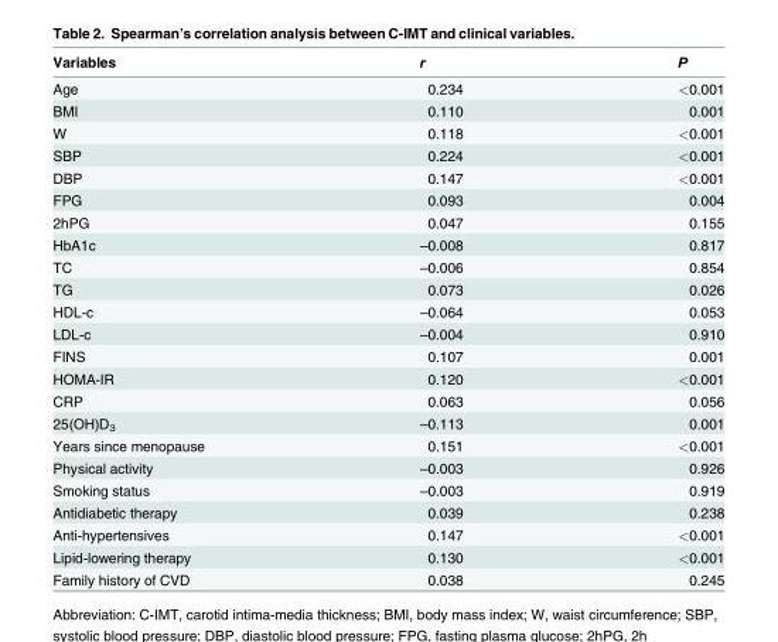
<table><thead><tr><td>Variables</td><td>r</td><td>P</td></tr></thead><tbody><tr><td>Age</td><td>0.234</td><td>&lt;0.001</td></tr><tr><td>BMI</td><td>0.110</td><td>0.001</td></tr><tr><td>W</td><td>0.118</td><td>&lt;0.001</td></tr><tr><td>SBP</td><td>0.224</td><td>&lt;0.001</td></tr><tr><td>DBP</td><td>0.147</td><td>&lt;0.001</td></tr><tr><td>FPG</td><td>0.093</td><td>0.004</td></tr><tr><td>2hPG</td><td>0.047</td><td>0.155</td></tr><tr><td>HbA1c</td><td>–0.008</td><td>0.817</td></tr><tr><td>TC</td><td>–0.006</td><td>0.854</td></tr><tr><td>TG</td><td>0.073</td><td>0.026</td></tr><tr><td>HDL-c</td><td>–0.064</td><td>0.053</td></tr><tr><td>LDL-c</td><td>–0.004</td><td>0.910</td></tr><tr><td>FINS</td><td>0.107</td><td>0.001</td></tr><tr><td>HOMA-IR</td><td>0.120</td><td>&lt;0.001</td></tr><tr><td>CRP</td><td>0.063</td><td>0.056</td></tr><tr><td>25(OH)D<sub>3</sub></td><td>–0.113</td><td>0.001</td></tr><tr><td>Years since menopause</td><td>0.151</td><td>&lt;0.001</td></tr><tr><td>Physical activity</td><td>–0.003</td><td>0.926</td></tr><tr><td>Smoking status</td><td>–0.003</td><td>0.919</td></tr><tr><td>Antidiabetic therapy</td><td>0.039</td><td>0.238</td></tr><tr><td>Anti-hypertensives</td><td>0.147</td><td>&lt;0.001</td></tr><tr><td>Lipid-lowering therapy</td><td>0.130</td><td>&lt;0.001</td></tr><tr><td>Family history of CVD</td><td>0.038</td><td>0.245</td></tr></tbody></table>